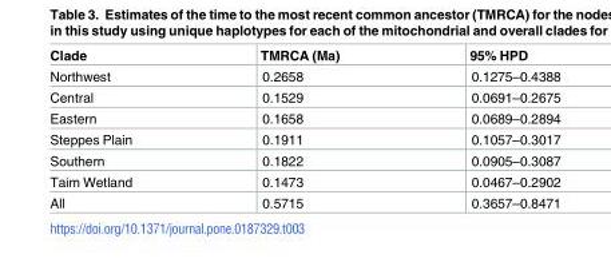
<table><thead><tr><td>Clade</td><td>TMRCA (Ma)</td><td>95% HPD</td></tr></thead><tbody><tr><td>Northwest</td><td>0.2658</td><td>0.1275–0.4388</td></tr><tr><td>Central</td><td>0.1529</td><td>0.0691–0.2675</td></tr><tr><td>Eastern</td><td>0.1658</td><td>0.0689–0.2894</td></tr><tr><td>Steppes Plain</td><td>0.1911</td><td>0.1057–0.3017</td></tr><tr><td>Southern</td><td>0.1822</td><td>0.0905–0.3087</td></tr><tr><td>Taim Wetland</td><td>0.1473</td><td>0.0467–0.2902</td></tr><tr><td>All</td><td>0.5715</td><td>0.3657–0.8471</td></tr></tbody></table>